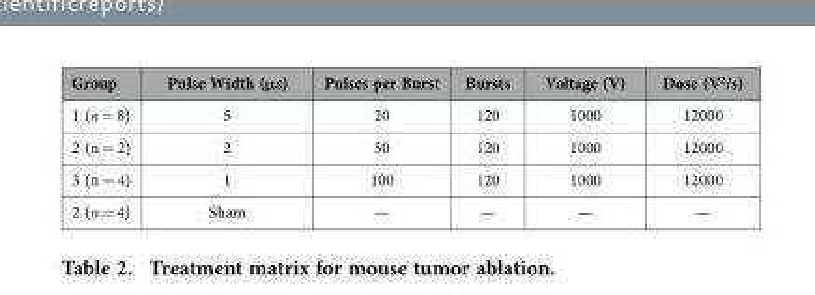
<table><thead><tr><td>Group</td><td>Pulse Width (μs)</td><td>Pulses per Burst</td><td>Bursts</td><td>Voltage (V)</td><td>Dose (V<sup>2</sup>/s)</td></tr></thead><tbody><tr><td>1 (n = 8)</td><td>5</td><td>20</td><td>120</td><td>1000</td><td>12000</td></tr><tr><td>2 (n = 2)</td><td>2</td><td>50</td><td>120</td><td>1000</td><td>12000</td></tr><tr><td>3 (n = 4)</td><td>1</td><td>100</td><td>120</td><td>1000</td><td>12000</td></tr><tr><td>2 (n = 4)</td><td>Sham</td><td>—</td><td>—</td><td>—</td><td>—</td></tr></tbody></table>